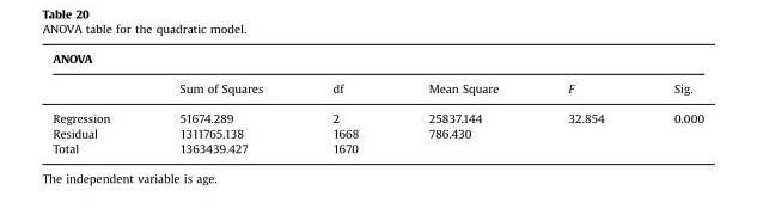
<table><thead><tr><td colspan="6">ANOVA</td></tr><tr><td></td><td>Sum of Squares</td><td>df</td><td>Mean Square</td><td>F</td><td>Sig.</td></tr></thead><tbody><tr><td>Regression</td><td>51674.289</td><td>2</td><td>25837.144</td><td>32.854</td><td>0.000</td></tr><tr><td>Residual</td><td>1311765.138</td><td>1668</td><td>786.430</td><td></td><td></td></tr><tr><td>Total</td><td>1363439.427</td><td>1670</td><td></td><td></td><td></td></tr></tbody></table>